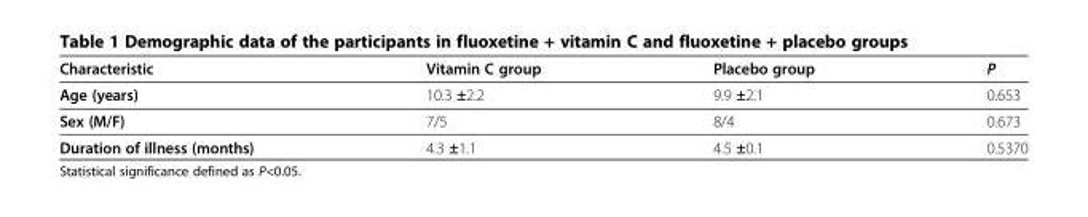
<table><thead><tr><td>Characteristic</td><td>Vitamin C group</td><td>Placebo group</td><td>P</td></tr></thead><tbody><tr><td>Age (years)</td><td>10.3 ±2.2</td><td>9.9 ±2.1</td><td>0.653</td></tr><tr><td>Sex (M/F)</td><td>7/5</td><td>8/4</td><td>0.673</td></tr><tr><td>Duration of illness (months)</td><td>4.3 ±1.1</td><td>4.5 ±0.1</td><td>0.5370</td></tr></tbody></table>